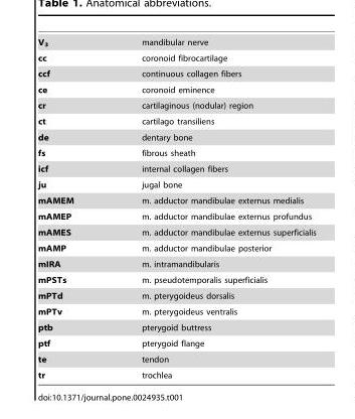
<table><tbody><tr><td>V<sub>3</sub></td><td>mandibular nerve</td></tr><tr><td>cc</td><td>coronoid fibrocartilage</td></tr><tr><td>ccf</td><td>continuous collagen fibers</td></tr><tr><td>ce</td><td>coronoid eminence</td></tr><tr><td>cr</td><td>cartilaginous (nodular) region</td></tr><tr><td>ct</td><td>cartilago transiliens</td></tr><tr><td>de</td><td>dentary bone</td></tr><tr><td>fs</td><td>fibrous sheath</td></tr><tr><td>icf</td><td>internal collagen fibers</td></tr><tr><td>ju</td><td>jugal bone</td></tr><tr><td>mAMEM</td><td>m. adductor mandibulae externus medialis</td></tr><tr><td>mAMEP</td><td>m. adductor mandibulae externus profundus</td></tr><tr><td>mAMES</td><td>m. adductor mandibulae externus superficialis</td></tr><tr><td>mAMP</td><td>m. adductor mandibulae posterior</td></tr><tr><td>mIRA</td><td>m. intramandibularis</td></tr><tr><td>mPSTs</td><td>m. pseudotemporalis superficialis</td></tr><tr><td>mPTd</td><td>m. pterygoideus dorsalis</td></tr><tr><td>mPTv</td><td>m. pterygoideus ventralis</td></tr><tr><td>ptb</td><td>pterygoid buttress</td></tr><tr><td>ptf</td><td>pterygoid flange</td></tr><tr><td>te</td><td>tendon</td></tr><tr><td>tr</td><td>trochlea</td></tr></tbody></table>